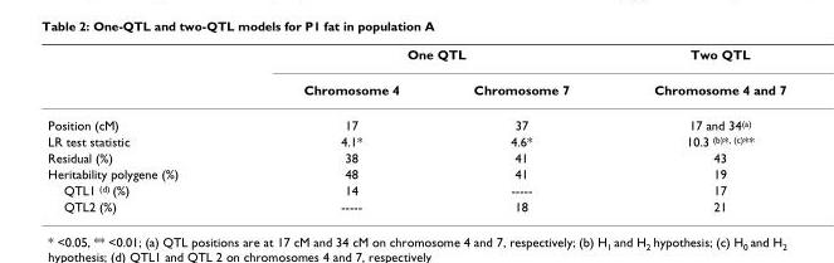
<table><thead><tr><td rowspan="2"></td><td colspan="2">One QTL</td><td rowspan="2">Two QTL Chromosome 4 and 7</td></tr><tr><td>Chromosome 4</td><td>Chromosome 7</td></tr></thead><tbody><tr><td>Position (cM)</td><td>17</td><td>37</td><td>17 and 34<sup>(a)</sup></td></tr><tr><td>LR test statistic</td><td>4.1*</td><td>4.6*</td><td>10.3 <sup>(b)</sup>*<sup>, (c)</sup>**</td></tr><tr><td>Residual (%)</td><td>38</td><td>41</td><td>43</td></tr><tr><td>Heritability polygene (%)</td><td>48</td><td>41</td><td>19</td></tr><tr><td>QTL1 <sup>(d)</sup> (%)</td><td>14</td><td>-----</td><td>17</td></tr><tr><td>QTL2 (%)</td><td>-----</td><td>18</td><td>21</td></tr></tbody></table>